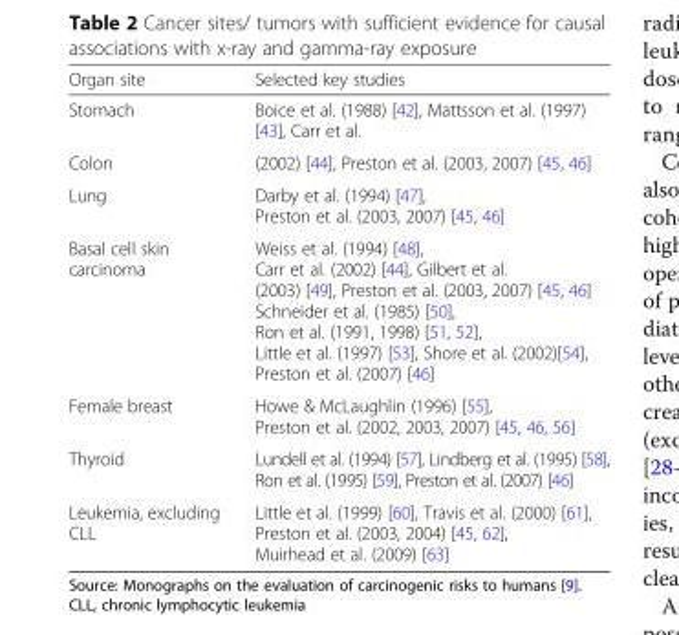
<table><thead><tr><td>Organ site</td><td>Selected key studies</td></tr></thead><tbody><tr><td>Stomach</td><td>Boice et al. (1988) [42], Mattsson et al. (1997) [43], Carr et al.</td></tr><tr><td>Colon</td><td>(2002) [44], Preston et al. (2003, 2007) [45, 46]</td></tr><tr><td>Lung</td><td>Darby et al. (1994) [47], Preston et al. (2003, 2007) [45, 46]</td></tr><tr><td>Basal cell skin carcinoma</td><td>Weiss et al. (1994) [48], Carr et al. (2002) [44], Gilbert et al. (2003) [49], Preston et al. (2003, 2007) [45, 46] Schneider et al. (1985) [50], Ron et al. (1991, 1998) [51, 52], Little et al. (1997) [53], Shore et al. (2002)[54], Preston et al. (2007) [46]</td></tr><tr><td>Female breast</td><td>Howe &amp; McLaughlin (1996) [55], Preston et al. (2002, 2003, 2007) [45, 46, 56]</td></tr><tr><td>Thyroid</td><td>Lundell et al. (1994) [57], Lindberg et al. (1995) [58], Ron et al. (1995) [59], Preston et al. (2007) [46]</td></tr><tr><td>Leukemia, excluding CLL</td><td>Little et al. (1999) [60], Travis et al. (2000) [61], Preston et al. (2003, 2004) [45, 62], Muirhead et al. (2009) [63]</td></tr></tbody></table>